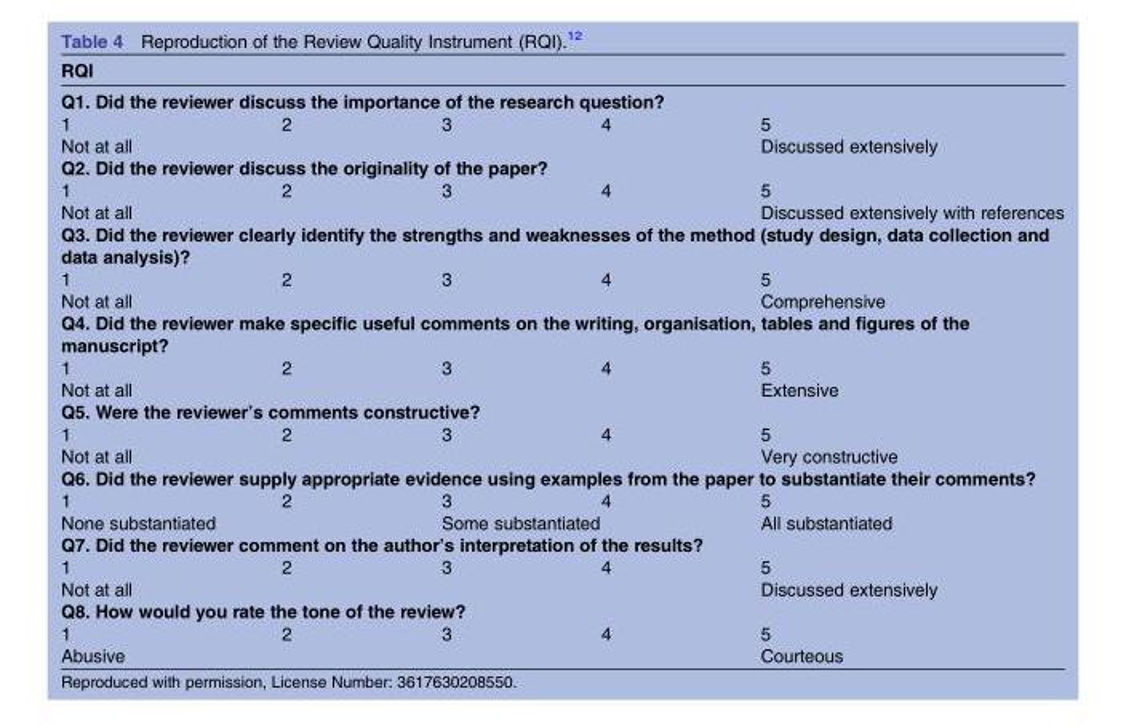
<table><thead><tr><td rowspan="2" colspan="5">RQI Q1. Did the reviewer discuss the importance of the research question?</td></tr><tr></tr><tr><td>1</td><td>2</td><td>3</td><td>4</td><td>5</td></tr></thead><tbody><tr><td>Not at all</td><td></td><td></td><td></td><td>Discussed extensively</td></tr><tr><td colspan="5">Q2. Did the reviewer discuss the originality of the paper?</td></tr><tr><td>1</td><td>2</td><td>3</td><td>4</td><td>5</td></tr><tr><td>Not at all</td><td></td><td></td><td></td><td>Discussed extensively with references</td></tr><tr><td colspan="5">Q3. Did the reviewer clearly identify the strengths and weaknesses of the method (study design, data collection and data analysis)?</td></tr><tr><td>1</td><td>2</td><td>3</td><td>4</td><td>5</td></tr><tr><td>Not at all</td><td></td><td></td><td></td><td>Comprehensive</td></tr><tr><td colspan="5">Q4. Did the reviewer make specific useful comments on the writing, organisation, tables and figures of the manuscript?</td></tr><tr><td>1</td><td>2</td><td>3</td><td>4</td><td>5</td></tr><tr><td>Not at all</td><td></td><td></td><td></td><td>Extensive</td></tr><tr><td colspan="5">Q5. Were the reviewer’s comments constructive?</td></tr><tr><td>1</td><td>2</td><td>3</td><td>4</td><td>5</td></tr><tr><td>Not at all</td><td></td><td></td><td></td><td>Very constructive</td></tr><tr><td colspan="5">Q6. Did the reviewer supply appropriate evidence using examples from the paper to substantiate their comments?</td></tr><tr><td>1</td><td>2</td><td>3</td><td>4</td><td>5</td></tr><tr><td colspan="2">None substantiated</td><td colspan="2">Some substantiated</td><td>All substantiated</td></tr><tr><td colspan="5">Q7. Did the reviewer comment on the author’s interpretation of the results?</td></tr><tr><td>1</td><td>2</td><td>3</td><td>4</td><td>5</td></tr><tr><td>Not at all</td><td></td><td></td><td></td><td>Discussed extensively</td></tr><tr><td colspan="5">Q8. How would you rate the tone of the review?</td></tr><tr><td>1</td><td>2</td><td>3</td><td>4</td><td>5</td></tr><tr><td>Abusive</td><td></td><td></td><td></td><td>Courteous</td></tr></tbody></table>